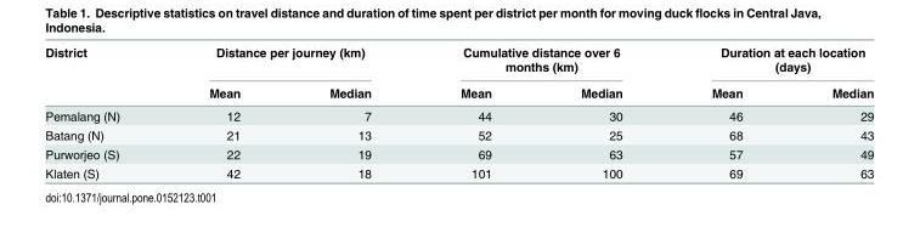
<table><thead><tr><td rowspan="2">District</td><td colspan="2">Distance per journey (km)</td><td colspan="2">Cumulative distance over 6 months (km)</td><td colspan="2">Duration at each location (days)</td></tr><tr><td>Mean</td><td>Median</td><td>Mean</td><td>Median</td><td>Mean</td><td>Median</td></tr></thead><tbody><tr><td>Pemalang (N)</td><td>12</td><td>7</td><td>44</td><td>30</td><td>46</td><td>29</td></tr><tr><td>Batang (N)</td><td>21</td><td>13</td><td>52</td><td>25</td><td>68</td><td>43</td></tr><tr><td>Purworjeo (S)</td><td>22</td><td>19</td><td>69</td><td>63</td><td>57</td><td>49</td></tr><tr><td>Klaten (S)</td><td>42</td><td>18</td><td>101</td><td>100</td><td>69</td><td>63</td></tr></tbody></table>